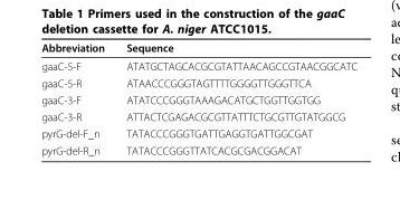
<table><thead><tr><td>Abbreviation</td><td>Sequence</td></tr></thead><tbody><tr><td>gaaC-5-F</td><td>ATATGCTAGCACGCGTATTAACAGCCGTAACGGCATC</td></tr><tr><td>gaaC-5-R</td><td>ATAACCCGGGTAGTTTTGGGGTTGGGTTCA</td></tr><tr><td>gaaC-3-F</td><td>ATATCCCGGGTAAAGACATGCTGGTTGGTGG</td></tr><tr><td>gaaC-3-R</td><td>ATTACTCGAGACGCGTTATTTCTGCGTTGTATGGCG</td></tr><tr><td>pyrG-del-F_n</td><td>TATACCCGGGTGATTGAGGTGATTGGCGAT</td></tr><tr><td>pyrG-del-R_n</td><td>TATACCCGGGTTATCACGCGACGGACAT</td></tr></tbody></table>